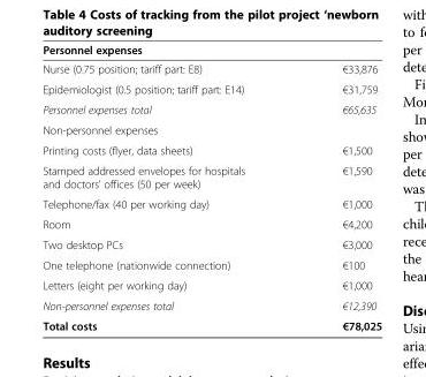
<table><thead><tr><td colspan="2">Personnel expenses</td></tr><tr><td>Nurse (0.75 position; tariff part: E8)</td><td>€33,876</td></tr></thead><tbody><tr><td>Epidemiologist (0.5 position; tariff part: E14)</td><td>€31,759</td></tr><tr><td>Personnel expenses total</td><td>€65,635</td></tr><tr><td colspan="2">Non-personnel expenses</td></tr><tr><td>Printing costs (flyer, data sheets)</td><td>€1,500</td></tr><tr><td>Stamped addressed envelopes for hospitals and doctors’ offices (50 per week)</td><td>€1,590</td></tr><tr><td>Telephone/fax (40 per working day)</td><td>€1,000</td></tr><tr><td>Room</td><td>€4,200</td></tr><tr><td>Two desktop PCs</td><td>€3,000</td></tr><tr><td>One telephone (nationwide connection)</td><td>€100</td></tr><tr><td>Letters (eight per working day)</td><td>€1,000</td></tr><tr><td>Non-personnel expenses total</td><td>€12,390</td></tr><tr><td>Total costs</td><td>€78,025</td></tr></tbody></table>